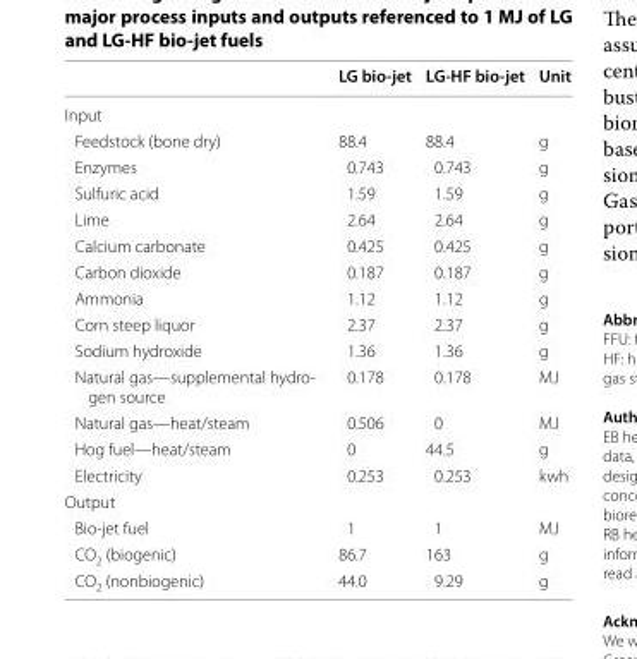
<table><thead><tr><td></td><td>LG bio-jet</td><td>LG-HF bio-jet</td><td>Unit</td></tr></thead><tbody><tr><td colspan="4">Input</td></tr><tr><td>Feedstock (bone dry)</td><td>88.4</td><td>88.4</td><td>g</td></tr><tr><td>Enzymes</td><td>0.743</td><td>0.743</td><td>g</td></tr><tr><td>Sulfuric acid</td><td>1.59</td><td>1.59</td><td>g</td></tr><tr><td>Lime</td><td>2.64</td><td>2.64</td><td>g</td></tr><tr><td>Calcium carbonate</td><td>0.425</td><td>0.425</td><td>g</td></tr><tr><td>Carbon dioxide</td><td>0.187</td><td>0.187</td><td>g</td></tr><tr><td>Ammonia</td><td>1.12</td><td>1.12</td><td>g</td></tr><tr><td>Corn steep liquor</td><td>2.37</td><td>2.37</td><td>g</td></tr><tr><td>Sodium hydroxide</td><td>1.36</td><td>1.36</td><td>g</td></tr><tr><td>Natural gas—supplemental hydro- gen source</td><td>0.178</td><td>0.178</td><td>MJ</td></tr><tr><td>Natural gas—heat/steam</td><td>0.506</td><td>0</td><td>MJ</td></tr><tr><td>Hog fuel—heat/steam</td><td>0</td><td>44.5</td><td>g</td></tr><tr><td>Electricity</td><td>0.253</td><td>0.253</td><td>kwh</td></tr><tr><td colspan="4">Output</td></tr><tr><td>Bio-jet fuel</td><td>1</td><td>1</td><td>MJ</td></tr><tr><td>CO<sub>2</sub> (biogenic)</td><td>86.7</td><td>163</td><td>g</td></tr><tr><td>CO<sub>2</sub> (nonbiogenic)</td><td>44.0</td><td>9.29</td><td>g</td></tr></tbody></table>